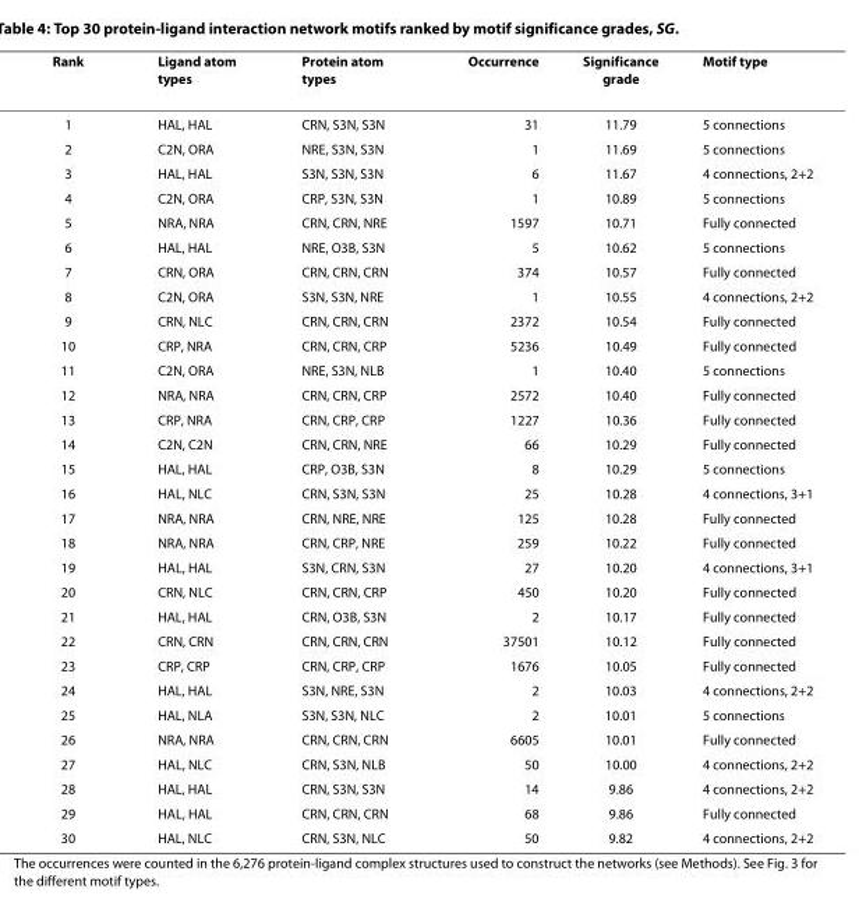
<table><thead><tr><td>Rank</td><td>Ligand atom types</td><td>Protein atom types</td><td>Occurrence</td><td>Significance grade</td><td>Motif type</td></tr></thead><tbody><tr><td>1</td><td>HAL, HAL</td><td>CRN, S3N, S3N</td><td>31</td><td>11.79</td><td>5 connections</td></tr><tr><td>2</td><td>C2N, ORA</td><td>NRE, S3N, S3N</td><td>1</td><td>11.69</td><td>5 connections</td></tr><tr><td>3</td><td>HAL, HAL</td><td>S3N, S3N, S3N</td><td>6</td><td>11.67</td><td>4 connections, 2+2</td></tr><tr><td>4</td><td>C2N, ORA</td><td>CRP, S3N, S3N</td><td>1</td><td>10.89</td><td>5 connections</td></tr><tr><td>5</td><td>NRA, NRA</td><td>CRN, CRN, NRE</td><td>1597</td><td>10.71</td><td>Fully connected</td></tr><tr><td>6</td><td>HAL, HAL</td><td>NRE, O3B, S3N</td><td>5</td><td>10.62</td><td>5 connections</td></tr><tr><td>7</td><td>CRN, ORA</td><td>CRN, CRN, CRN</td><td>374</td><td>10.57</td><td>Fully connected</td></tr><tr><td>8</td><td>C2N, ORA</td><td>S3N, S3N, NRE</td><td>1</td><td>10.55</td><td>4 connections, 2+2</td></tr><tr><td>9</td><td>CRN, NLC</td><td>CRN, CRN, CRN</td><td>2372</td><td>10.54</td><td>Fully connected</td></tr><tr><td>10</td><td>CRP, NRA</td><td>CRN, CRN, CRP</td><td>5236</td><td>10.49</td><td>Fully connected</td></tr><tr><td>11</td><td>C2N, ORA</td><td>NRE, S3N, NLB</td><td>1</td><td>10.40</td><td>5 connections</td></tr><tr><td>12</td><td>NRA, NRA</td><td>CRN, CRN, CRP</td><td>2572</td><td>10.40</td><td>Fully connected</td></tr><tr><td>13</td><td>CRP, NRA</td><td>CRN, CRP, CRP</td><td>1227</td><td>10.36</td><td>Fully connected</td></tr><tr><td>14</td><td>C2N, C2N</td><td>CRN, CRN, NRE</td><td>66</td><td>10.29</td><td>Fully connected</td></tr><tr><td>15</td><td>HAL, HAL</td><td>CRP, O3B, S3N</td><td>8</td><td>10.29</td><td>5 connections</td></tr><tr><td>16</td><td>HAL, NLC</td><td>CRN, S3N, S3N</td><td>25</td><td>10.28</td><td>4 connections, 3+1</td></tr><tr><td>17</td><td>NRA, NRA</td><td>CRN, NRE, NRE</td><td>125</td><td>10.28</td><td>Fully connected</td></tr><tr><td>18</td><td>NRA, NRA</td><td>CRN, CRP, NRE</td><td>259</td><td>10.22</td><td>Fully connected</td></tr><tr><td>19</td><td>HAL, HAL</td><td>S3N, CRN, S3N</td><td>27</td><td>10.20</td><td>4 connections, 3+1</td></tr><tr><td>20</td><td>CRN, NLC</td><td>CRN, CRN, CRP</td><td>450</td><td>10.20</td><td>Fully connected</td></tr><tr><td>21</td><td>HAL, HAL</td><td>CRN, O3B, S3N</td><td>2</td><td>10.17</td><td>Fully connected</td></tr><tr><td>22</td><td>CRN, CRN</td><td>CRN, CRN, CRN</td><td>37501</td><td>10.12</td><td>Fully connected</td></tr><tr><td>23</td><td>CRP, CRP</td><td>CRN, CRP, CRP</td><td>1676</td><td>10.05</td><td>Fully connected</td></tr><tr><td>24</td><td>HAL, HAL</td><td>S3N, NRE, S3N</td><td>2</td><td>10.03</td><td>4 connections, 2+2</td></tr><tr><td>25</td><td>HAL, NLA</td><td>S3N, S3N, NLC</td><td>2</td><td>10.01</td><td>5 connections</td></tr><tr><td>26</td><td>NRA, NRA</td><td>CRN, CRN, CRN</td><td>6605</td><td>10.01</td><td>Fully connected</td></tr><tr><td>27</td><td>HAL, NLC</td><td>CRN, S3N, NLB</td><td>50</td><td>10.00</td><td>4 connections, 2+2</td></tr><tr><td>28</td><td>HAL, HAL</td><td>CRN, S3N, S3N</td><td>14</td><td>9.86</td><td>4 connections, 2+2</td></tr><tr><td>29</td><td>HAL, HAL</td><td>CRN, CRN, CRN</td><td>68</td><td>9.86</td><td>Fully connected</td></tr><tr><td>30</td><td>HAL, NLC</td><td>CRN, S3N, NLC</td><td>50</td><td>9.82</td><td>4 connections, 2+2</td></tr></tbody></table>